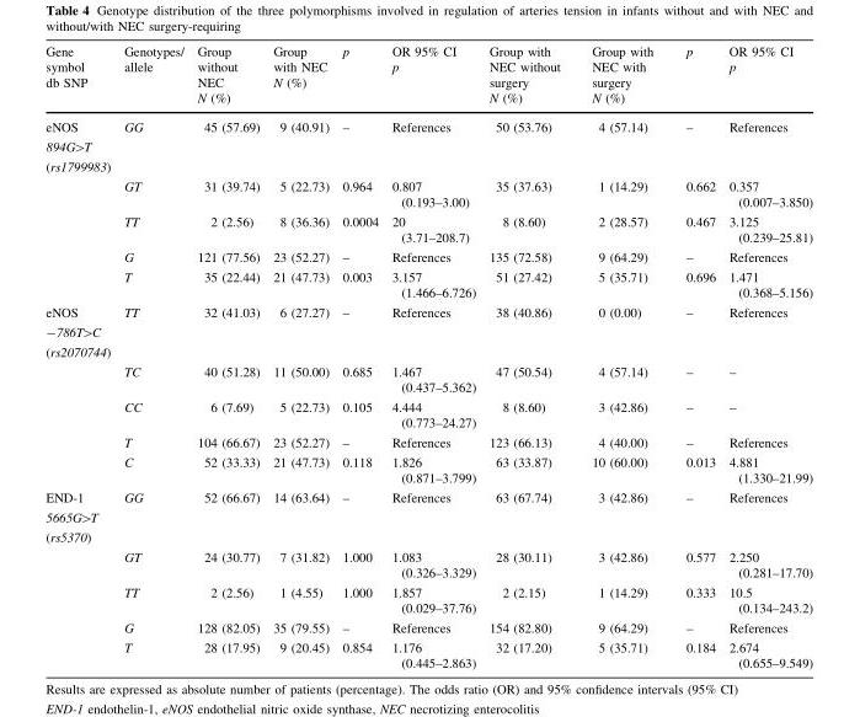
<table><thead><tr><td>Gene symbol db SNP</td><td>Genotypes/ allele</td><td>Group without NEC N (%)</td><td>Group with NEC N (%)</td><td>p</td><td>OR 95% CI p</td><td>Group with NEC without surgery N (%)</td><td>Group with NEC with surgery N (%)</td><td>p</td><td>OR 95% CI p</td></tr></thead><tbody><tr><td rowspan="5">eNOS 894G&gt;T (rs1799983)</td><td>GG</td><td>45 (57.69)</td><td>9 (40.91)</td><td>–</td><td>References</td><td>50 (53.76)</td><td>4 (57.14)</td><td>–</td><td>References</td></tr><tr><td>GT</td><td>31 (39.74)</td><td>5 (22.73)</td><td>0.964</td><td>0.807 (0.193–3.00)</td><td>35 (37.63)</td><td>1 (14.29)</td><td>0.662</td><td>0.357 (0.007–3.850)</td></tr><tr><td>TT</td><td>2 (2.56)</td><td>8 (36.36)</td><td>0.0004</td><td>20 (3.71–208.7)</td><td>8 (8.60)</td><td>2 (28.57)</td><td>0.467</td><td>3.125 (0.239–25.81)</td></tr><tr><td>G</td><td>121 (77.56)</td><td>23 (52.27)</td><td>–</td><td>References</td><td>135 (72.58)</td><td>9 (64.29)</td><td>–</td><td>References</td></tr><tr><td>T</td><td>35 (22.44)</td><td>21 (47.73)</td><td>0.003</td><td>3.157 (1.466–6.726)</td><td>51 (27.42)</td><td>5 (35.71)</td><td>0.696</td><td>1.471 (0.368–5.156)</td></tr><tr><td rowspan="5">eNOS -786T&gt;C (rs2070744)</td><td>TT</td><td>32 (41.03)</td><td>6 (27.27)</td><td>–</td><td>References</td><td>38 (40.86)</td><td>0 (0.00)</td><td>–</td><td>References</td></tr><tr><td>TC</td><td>40 (51.28)</td><td>11 (50.00)</td><td>0.685</td><td>1.467 (0.437–5.362)</td><td>47 (50.54)</td><td>4 (57.14)</td><td>–</td><td>–</td></tr><tr><td>CC</td><td>6 (7.69)</td><td>5 (22.73)</td><td>0.105</td><td>4.444 (0.773–24.27)</td><td>8 (8.60)</td><td>3 (42.86)</td><td>–</td><td>–</td></tr><tr><td>T</td><td>104 (66.67)</td><td>23 (52.27)</td><td>–</td><td>References</td><td>123 (66.13)</td><td>4 (40.00)</td><td>–</td><td>References</td></tr><tr><td>C</td><td>52 (33.33)</td><td>21 (47.73)</td><td>0.118</td><td>1.826 (0.871–3.799)</td><td>63 (33.87)</td><td>10 (60.00)</td><td>0.013</td><td>4.881 (1.330–21.99)</td></tr><tr><td rowspan="5">END-1 5665G&gt;T (rs5370)</td><td>GG</td><td>52 (66.67)</td><td>14 (63.64)</td><td>–</td><td>References</td><td>63 (67.74)</td><td>3 (42.86)</td><td>–</td><td>References</td></tr><tr><td>GT</td><td>24 (30.77)</td><td>7 (31.82)</td><td>1.000</td><td>1.083 (0.326–3.329)</td><td>28 (30.11)</td><td>3 (42.86)</td><td>0.577</td><td>2.250 (0.281–17.70)</td></tr><tr><td>TT</td><td>2 (2.56)</td><td>1 (4.55)</td><td>1.000</td><td>1.857 (0.029–37.76)</td><td>2 (2.15)</td><td>1 (14.29)</td><td>0.333</td><td>10.5 (0.134–243.2)</td></tr><tr><td>G</td><td>128 (82.05)</td><td>35 (79.55)</td><td>–</td><td>References</td><td>154 (82.80)</td><td>9 (64.29)</td><td>–</td><td>References</td></tr><tr><td>T</td><td>28 (17.95)</td><td>9 (20.45)</td><td>0.854</td><td>1.176 (0.445–2.863)</td><td>32 (17.20)</td><td>5 (35.71)</td><td>0.184</td><td>2.674 (0.655–9.549)</td></tr></tbody></table>